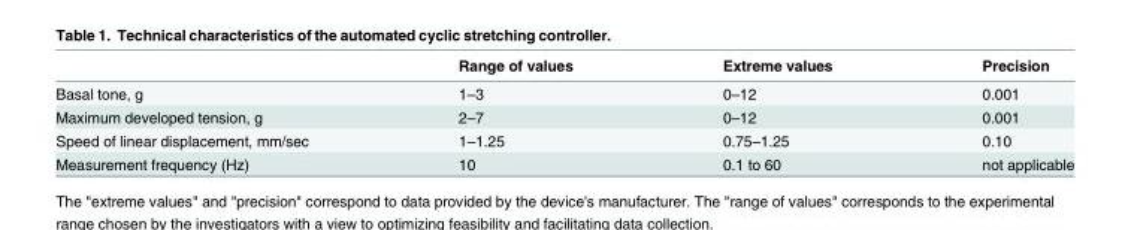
<table><thead><tr><td></td><td>Range of values</td><td>Extreme values</td><td>Precision</td></tr></thead><tbody><tr><td>Basal tone, g</td><td>1–3</td><td>0–12</td><td>0.001</td></tr><tr><td>Maximum developed tension, g</td><td>2–7</td><td>0–12</td><td>0.001</td></tr><tr><td>Speed of linear displacement, mm/sec</td><td>1–1.25</td><td>0.75–1.25</td><td>0.10</td></tr><tr><td>Measurement frequency (Hz)</td><td>10</td><td>0.1 to 60</td><td>not applicable</td></tr></tbody></table>